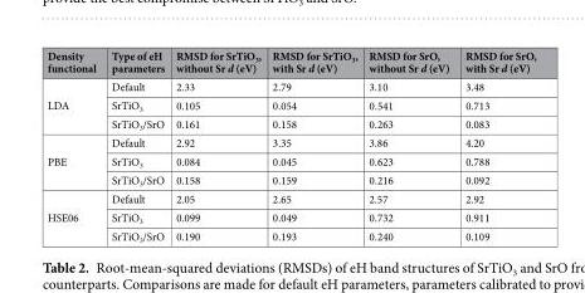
<table><thead><tr><td>Density functional</td><td>Type of eH parameters</td><td>RMSD for SrTiO<sub>3</sub>, without Sr d (eV)</td><td>RMSD for SrTiO<sub>3</sub>, with Sr d (eV)</td><td>RMSD for SrO, without Sr d (eV)</td><td>RMSD for SrO, with Sr d (eV)</td></tr></thead><tbody><tr><td rowspan="3">LDA</td><td>Default</td><td>2.33</td><td>2.79</td><td>3.10</td><td>3.48</td></tr><tr><td>SrTiO<sub>3</sub></td><td>0.105</td><td>0.054</td><td>0.541</td><td>0.713</td></tr><tr><td>SrTiO<sub>3</sub>/SrO</td><td>0.161</td><td>0.158</td><td>0.263</td><td>0.083</td></tr><tr><td rowspan="3">PBE</td><td>Default</td><td>2.92</td><td>3.35</td><td>3.86</td><td>4.20</td></tr><tr><td>SrTiO<sub>3</sub></td><td>0.084</td><td>0.045</td><td>0.623</td><td>0.788</td></tr><tr><td>SrTiO<sub>3</sub>/SrO</td><td>0.158</td><td>0.159</td><td>0.216</td><td>0.092</td></tr><tr><td rowspan="3">HSE06</td><td>Default</td><td>2.05</td><td>2.65</td><td>2.57</td><td>2.92</td></tr><tr><td>SrTiO<sub>3</sub></td><td>0.099</td><td>0.049</td><td>0.732</td><td>0.911</td></tr><tr><td>SrTiO<sub>3</sub>/SrO</td><td>0.190</td><td>0.193</td><td>0.240</td><td>0.109</td></tr></tbody></table>